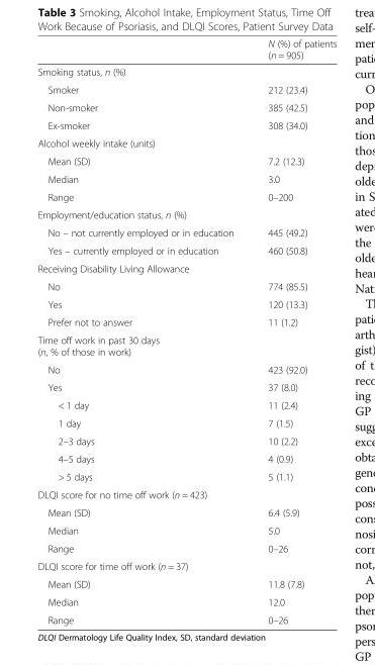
<table><thead><tr><td></td><td>N (%) of patients (n = 905)</td></tr></thead><tbody><tr><td colspan="2">Smoking status, n (%)</td></tr><tr><td>Smoker</td><td>212 (23.4)</td></tr><tr><td>Non-smoker</td><td>385 (42.5)</td></tr><tr><td>Ex-smoker</td><td>308 (34.0)</td></tr><tr><td colspan="2">Alcohol weekly intake (units)</td></tr><tr><td>Mean (SD)</td><td>7.2 (12.3)</td></tr><tr><td>Median</td><td>3.0</td></tr><tr><td>Range</td><td>0–200</td></tr><tr><td colspan="2">Employment/education status, n (%)</td></tr><tr><td>No – not currently employed or in education</td><td>445 (49.2)</td></tr><tr><td>Yes – currently employed or in education</td><td>460 (50.8)</td></tr><tr><td colspan="2">Receiving Disability Living Allowance</td></tr><tr><td>No</td><td>774 (85.5)</td></tr><tr><td>Yes</td><td>120 (13.3)</td></tr><tr><td>Prefer not to answer</td><td>11 (1.2)</td></tr><tr><td colspan="2">Time off work in past 30 days (n, % of those in work)</td></tr><tr><td>No</td><td>423 (92.0)</td></tr><tr><td>Yes</td><td>37 (8.0)</td></tr><tr><td>&lt; 1 day</td><td>11 (2.4)</td></tr><tr><td>1 day</td><td>7 (1.5)</td></tr><tr><td>2–3 days</td><td>10 (2.2)</td></tr><tr><td>4–5 days</td><td>4 (0.9)</td></tr><tr><td>&gt; 5 days</td><td>5 (1.1)</td></tr><tr><td colspan="2">DLQI score for no time off work (n = 423)</td></tr><tr><td>Mean (SD)</td><td>6.4 (5.9)</td></tr><tr><td>Median</td><td>5.0</td></tr><tr><td>Range</td><td>0–26</td></tr><tr><td colspan="2">DLQI score for time off work (n = 37)</td></tr><tr><td>Mean (SD)</td><td>11.8 (7.8)</td></tr><tr><td>Median</td><td>12.0</td></tr><tr><td>Range</td><td>0–26</td></tr></tbody></table>